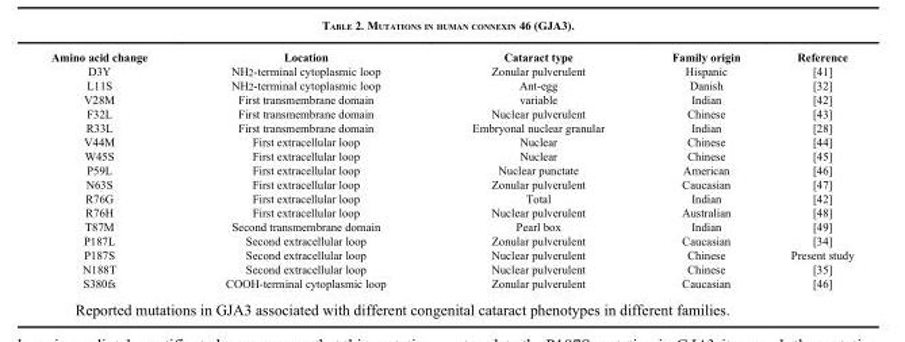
<table><thead><tr><td>Amino acid change</td><td>Location</td><td>Cataract type</td><td>Family origin</td><td>Reference</td></tr></thead><tbody><tr><td>D3Y</td><td>NH<sub>2</sub>-terminal cytoplasmic loop</td><td>Zonular pulverulent</td><td>Hispanic</td><td>[41]</td></tr><tr><td>L11S</td><td>NH<sub>2</sub>-terminal cytoplasmic loop</td><td>Ant-egg</td><td>Danish</td><td>[32]</td></tr><tr><td>V28M</td><td>First transmembrane domain</td><td>variable</td><td>Indian</td><td>[42]</td></tr><tr><td>F32L</td><td>First transmembrane domain</td><td>Nuclear pulverulent</td><td>Chinese</td><td>[43]</td></tr><tr><td>R33L</td><td>First transmembrane domain</td><td>Embryonal nuclear granular</td><td>Indian</td><td>[28]</td></tr><tr><td>V44M</td><td>First extracellular loop</td><td>Nuclear</td><td>Chinese</td><td>[44]</td></tr><tr><td>W45S</td><td>First extracellular loop</td><td>Nuclear</td><td>Chinese</td><td>[45]</td></tr><tr><td>P59L</td><td>First extracellular loop</td><td>Nuclear punctate</td><td>American</td><td>[46]</td></tr><tr><td>N63S</td><td>First extracellular loop</td><td>Zonular pulverulent</td><td>Caucasian</td><td>[47]</td></tr><tr><td>R76G</td><td>First extracellular loop</td><td>Total</td><td>Indian</td><td>[42]</td></tr><tr><td>R76H</td><td>First extracellular loop</td><td>Nuclear pulverulent</td><td>Australian</td><td>[48]</td></tr><tr><td>T87M</td><td>Second transmembrane domain</td><td>Pearl box</td><td>Indian</td><td>[49]</td></tr><tr><td>P187L</td><td>Second extracellular loop</td><td>Zonular pulverulent</td><td>Caucasian</td><td>[34]</td></tr><tr><td>P187S</td><td>Second extracellular loop</td><td>Nuclear pulverulent</td><td>Chinese</td><td>Present study</td></tr><tr><td>N188T</td><td>Second extracellular loop</td><td>Nuclear pulverulent</td><td>Chinese</td><td>[35]</td></tr><tr><td>S380fs</td><td>COOH-terminal cytoplasmic loop</td><td>Zonular pulverulent</td><td>Caucasian</td><td>[46]</td></tr></tbody></table>